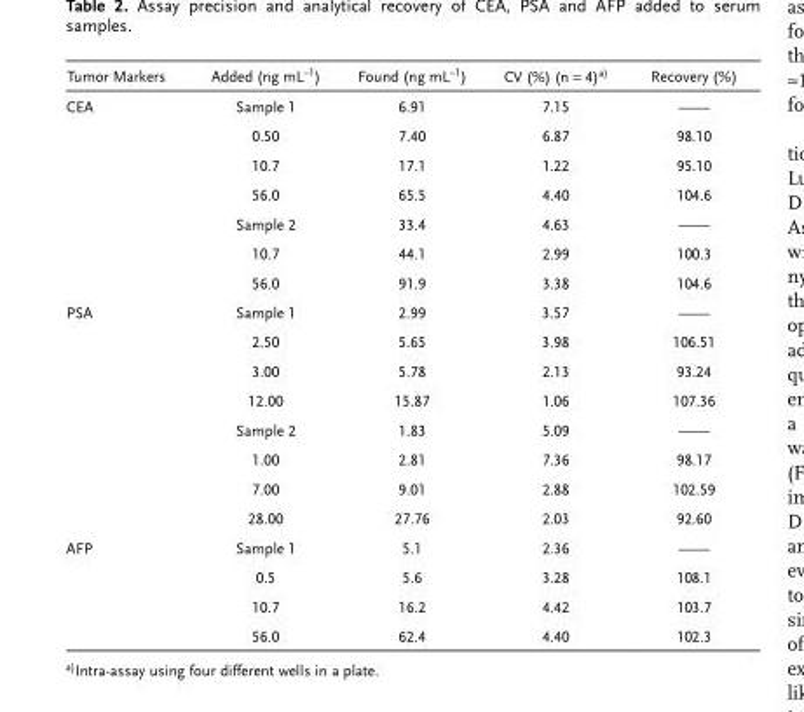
<table><thead><tr><td>Tumor Markers</td><td>Added (ng mL<sup>–1</sup>)</td><td>Found (ng mL<sup>–1</sup>)</td><td>CV (%) (n = 4)a)</td><td>Recovery (%)</td></tr></thead><tbody><tr><td rowspan="7">CEA</td><td>Sample 1</td><td>6.91</td><td>7.15</td><td>——</td></tr><tr><td>0.50</td><td>7.40</td><td>6.87</td><td>98.10</td></tr><tr><td>10.7</td><td>17.1</td><td>1.22</td><td>95.10</td></tr><tr><td>56.0</td><td>65.5</td><td>4.40</td><td>104.6</td></tr><tr><td>Sample 2</td><td>33.4</td><td>4.63</td><td>——</td></tr><tr><td>10.7</td><td>44.1</td><td>2.99</td><td>100.3</td></tr><tr><td>56.0</td><td>91.9</td><td>3.38</td><td>104.6</td></tr><tr><td rowspan="8">PSA</td><td>Sample 1</td><td>2.99</td><td>3.57</td><td>——</td></tr><tr><td>2.50</td><td>5.65</td><td>3.98</td><td>106.51</td></tr><tr><td>3.00</td><td>5.78</td><td>2.13</td><td>93.24</td></tr><tr><td>12.00</td><td>15.87</td><td>1.06</td><td>107.36</td></tr><tr><td>Sample 2</td><td>1.83</td><td>5.09</td><td>——</td></tr><tr><td>1.00</td><td>2.81</td><td>7.36</td><td>98.17</td></tr><tr><td>7.00</td><td>9.01</td><td>2.88</td><td>102.59</td></tr><tr><td>28.00</td><td>27.76</td><td>2.03</td><td>92.60</td></tr><tr><td rowspan="4">AFP</td><td>Sample 1</td><td>5.1</td><td>2.36</td><td>——</td></tr><tr><td>0.5</td><td>5.6</td><td>3.28</td><td>108.1</td></tr><tr><td>10.7</td><td>16.2</td><td>4.42</td><td>103.7</td></tr><tr><td>56.0</td><td>62.4</td><td>4.40</td><td>102.3</td></tr></tbody></table>